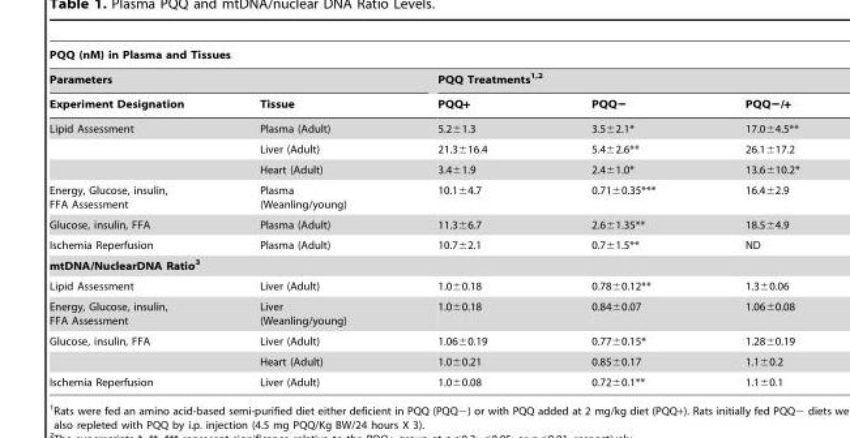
<table><thead><tr><td colspan="5">PQQ (nM) in Plasma and Tissues</td></tr><tr><td colspan="2">Parameters</td><td colspan="3">PQQ Treatments<sup>1,2</sup></td></tr><tr><td>Experiment Designation</td><td>Tissue</td><td>PQQ+</td><td>PQQ−</td><td>PQQ−/+</td></tr></thead><tbody><tr><td rowspan="3">Lipid Assessment</td><td>Plasma (Adult)</td><td>5.2±1.3</td><td>3.5±2.1*</td><td>17.0±4.5**</td></tr><tr><td>Liver (Adult)</td><td>21.3±16.4</td><td>5.4±2.6**</td><td>26.1±17.2</td></tr><tr><td>Heart (Adult)</td><td>3.4±1.9</td><td>2.4±1.0*</td><td>13.6±10.2*</td></tr><tr><td>Energy, Glucose, insulin, FFA Assessment</td><td>Plasma (Weanling/young)</td><td>10.1±4.7</td><td>0.71±0.35***</td><td>16.4±2.9</td></tr><tr><td>Glucose, insulin, FFA</td><td>Plasma (Adult)</td><td>11.3±6.7</td><td>2.6±1.35**</td><td>18.5±4.9</td></tr><tr><td>Ischemia Reperfusion</td><td>Plasma (Adult)</td><td>10.7±2.1</td><td>0.7±1.5**</td><td>ND</td></tr><tr><td colspan="5">mtDNA/NuclearDNA Ratio<sup>3</sup></td></tr><tr><td>Lipid Assessment</td><td>Liver (Adult)</td><td>1.0±0.18</td><td>0.78±0.12**</td><td>1.3±0.06</td></tr><tr><td>Energy, Glucose, insulin, FFA Assessment</td><td>Liver (Weanling/young)</td><td>1.0±0.18</td><td>0.84±0.07</td><td>1.06±0.08</td></tr><tr><td rowspan="2">Glucose, insulin, FFA</td><td>Liver (Adult)</td><td>1.06±0.19</td><td>0.77±0.15*</td><td>1.28±0.19</td></tr><tr><td>Heart (Adult)</td><td>1.0±0.21</td><td>0.85±0.17</td><td>1.1±0.2</td></tr><tr><td>Ischemia Reperfusion</td><td>Liver (Adult)</td><td>1.0±0.08</td><td>0.72±0.1**</td><td>1.1±0.1</td></tr></tbody></table>